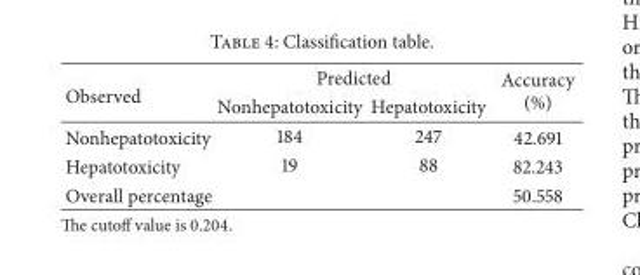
<table><thead><tr><td rowspan="2">Observed</td><td colspan="2">Predicted</td><td rowspan="2">Accuracy (%)</td></tr><tr><td>Nonhepatotoxicity</td><td>Hepatotoxicity</td></tr></thead><tbody><tr><td>Nonhepatotoxicity</td><td>184</td><td>247</td><td>42.691</td></tr><tr><td>Hepatotoxicity</td><td>19</td><td>88</td><td>82.243</td></tr><tr><td>Overall percentage</td><td></td><td></td><td>50.558</td></tr></tbody></table>